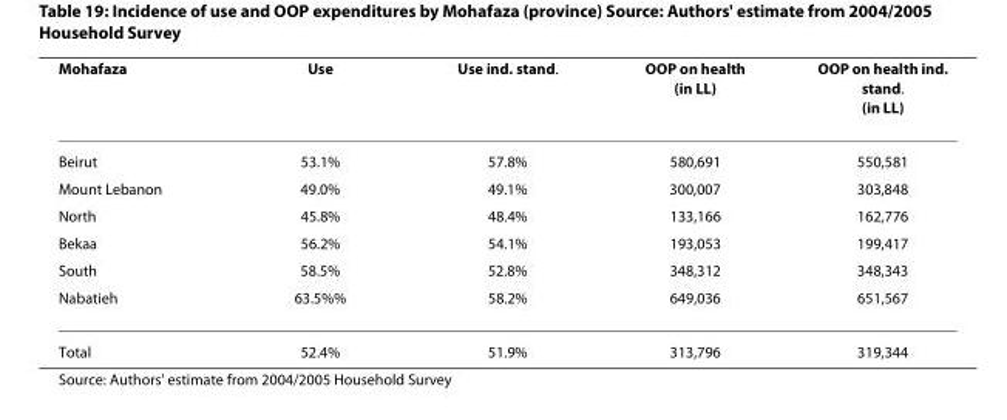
<table><thead><tr><td>Mohafaza</td><td>Use</td><td>Use ind. stand.</td><td>OOP on health (in LL)</td><td>OOP on health ind. stand. (in LL)</td></tr></thead><tbody><tr><td>Beirut</td><td>53.1%</td><td>57.8%</td><td>580,691</td><td>550,581</td></tr><tr><td>Mount Lebanon</td><td>49.0%</td><td>49.1%</td><td>300,007</td><td>303,848</td></tr><tr><td>North</td><td>45.8%</td><td>48.4%</td><td>133,166</td><td>162,776</td></tr><tr><td>Bekaa</td><td>56.2%</td><td>54.1%</td><td>193,053</td><td>199,417</td></tr><tr><td>South</td><td>58.5%</td><td>52.8%</td><td>348,312</td><td>348,343</td></tr><tr><td>Nabatieh</td><td>63.5%%</td><td>58.2%</td><td>649,036</td><td>651,567</td></tr><tr><td>Total</td><td>52.4%</td><td>51.9%</td><td>313,796</td><td>319,344</td></tr></tbody></table>